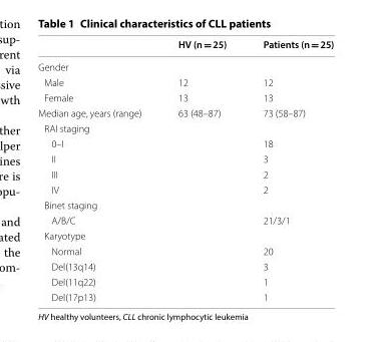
<table><thead><tr><td></td><td>HV (n = 25)</td><td>Patients (n = 25)</td></tr></thead><tbody><tr><td colspan="3">Gender</td></tr><tr><td>Male</td><td>12</td><td>12</td></tr><tr><td>Female</td><td>13</td><td>13</td></tr><tr><td>Median age, years (range)</td><td>63 (48–87)</td><td>73 (58–87)</td></tr><tr><td colspan="3">RAI staging</td></tr><tr><td>0–I</td><td></td><td>18</td></tr><tr><td>II</td><td></td><td>3</td></tr><tr><td>III</td><td></td><td>2</td></tr><tr><td>IV</td><td></td><td>2</td></tr><tr><td colspan="3">Binet staging</td></tr><tr><td>A/B/C</td><td></td><td>21/3/1</td></tr><tr><td colspan="3">Karyotype</td></tr><tr><td>Normal</td><td></td><td>20</td></tr><tr><td>Del(13q14)</td><td></td><td>3</td></tr><tr><td>Del(11q22)</td><td></td><td>1</td></tr><tr><td>Del(17p13)</td><td></td><td>1</td></tr></tbody></table>